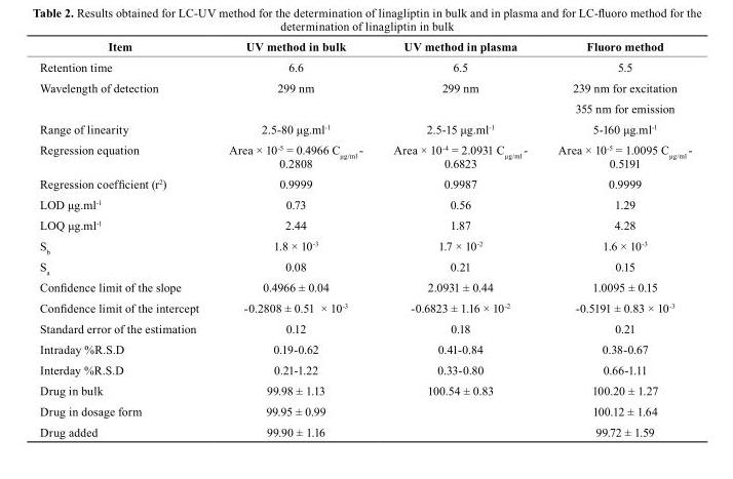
<table><thead><tr><td>Item</td><td>UV method in bulk</td><td>UV method in plasma</td><td>Fluoro method</td></tr></thead><tbody><tr><td>Retention time</td><td>6.6</td><td>6.5</td><td>5.5</td></tr><tr><td>Wavelength of detection</td><td>299 nm</td><td>299 nm</td><td>239 nm for excitation</td></tr><tr><td colspan="3"></td><td>355 nm for emission</td></tr><tr><td>Range of linearity</td><td>2.5-80 μg.ml<sup>-1</sup></td><td>2.5-15 μg.ml<sup>-1</sup></td><td>5-160 μg.ml<sup>-1</sup></td></tr><tr><td>Regression equation</td><td>Area × 10<sup>-5</sup> = 0.4966 C<sub>μg/ml</sub> - 0.2808</td><td>Area × 10<sup>-4</sup> = 2.0931 C<sub>μg/ml</sub> - 0.6823</td><td>Area × 10<sup>-5</sup> = 1.0095 C<sub>μg/ml</sub> - 0.5191</td></tr><tr><td>Regression coefficient (r<sup>2</sup>)</td><td>0.9999</td><td>0.9987</td><td>0.9999</td></tr><tr><td>LOD μg.ml<sup>-1</sup></td><td>0.73</td><td>0.56</td><td>1.29</td></tr><tr><td>LOQ μg.ml<sup>-1</sup></td><td>2.44</td><td>1.87</td><td>4.28</td></tr><tr><td>S<sub>b</sub></td><td>1.8 × 10<sup>-3</sup></td><td>1.7 × 10<sup>-2</sup></td><td>1.6 × 10<sup>-3</sup></td></tr><tr><td>S<sub>a</sub></td><td>0.08</td><td>0.21</td><td>0.15</td></tr><tr><td>Confidence limit of the slope</td><td>0.4966 ± 0.04</td><td>2.0931 ± 0.44</td><td>1.0095 ± 0.15</td></tr><tr><td>Confidence limit of the intercept</td><td>-0.2808 ± 0.51 × 10<sup>-3</sup></td><td>-0.6823 ± 1.16 × 10<sup>-2</sup></td><td>-0.5191 ± 0.83 × 10<sup>-3</sup></td></tr><tr><td>Standard error of the estimation</td><td>0.12</td><td>0.18</td><td>0.21</td></tr><tr><td>Intraday %R.S.D</td><td>0.19-0.62</td><td>0.41-0.84</td><td>0.38-0.67</td></tr><tr><td>Interday %R.S.D</td><td>0.21-1.22</td><td>0.33-0.80</td><td>0.66-1.11</td></tr><tr><td>Drug in bulk</td><td>99.98 ± 1.13</td><td>100.54 ± 0.83</td><td>100.20 ± 1.27</td></tr><tr><td>Drug in dosage form</td><td>99.95 ± 0.99</td><td></td><td>100.12 ± 1.64</td></tr><tr><td>Drug added</td><td>99.90 ± 1.16</td><td></td><td>99.72 ± 1.59</td></tr></tbody></table>